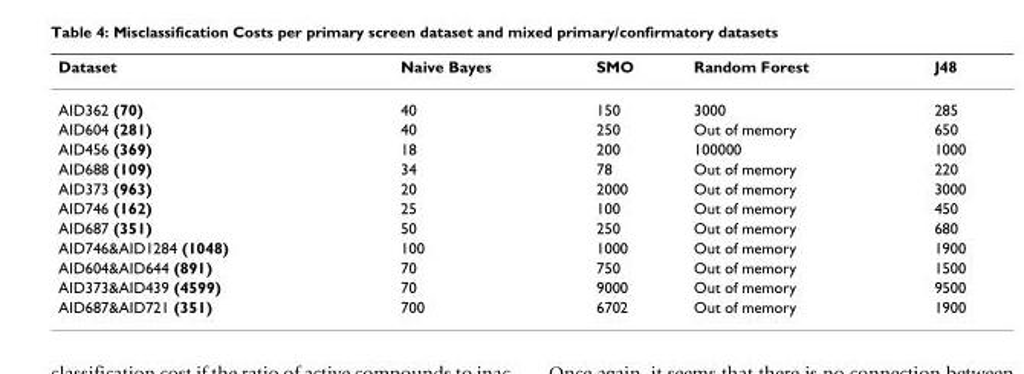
<table><thead><tr><td>Dataset</td><td>Naive Bayes</td><td>SMO</td><td>Random Forest</td><td>J48</td></tr></thead><tbody><tr><td>AID362 (70)</td><td>40</td><td>150</td><td>3000</td><td>285</td></tr><tr><td>AID604 (281)</td><td>40</td><td>250</td><td>Out of memory</td><td>650</td></tr><tr><td>AID456 (369)</td><td>18</td><td>200</td><td>100000</td><td>1000</td></tr><tr><td>AID688 (109)</td><td>34</td><td>78</td><td>Out of memory</td><td>220</td></tr><tr><td>AID373 (963)</td><td>20</td><td>2000</td><td>Out of memory</td><td>3000</td></tr><tr><td>AID746 (162)</td><td>25</td><td>100</td><td>Out of memory</td><td>450</td></tr><tr><td>AID687 (351)</td><td>50</td><td>250</td><td>Out of memory</td><td>680</td></tr><tr><td>AID746&amp;AID1284 (1048)</td><td>100</td><td>1000</td><td>Out of memory</td><td>1900</td></tr><tr><td>AID604&amp;AID644 (891)</td><td>70</td><td>750</td><td>Out of memory</td><td>1500</td></tr><tr><td>AID373&amp;AID439 (4599)</td><td>70</td><td>9000</td><td>Out of memory</td><td>9500</td></tr><tr><td>AID687&amp;AID721 (351)</td><td>700</td><td>6702</td><td>Out of memory</td><td>1900</td></tr></tbody></table>